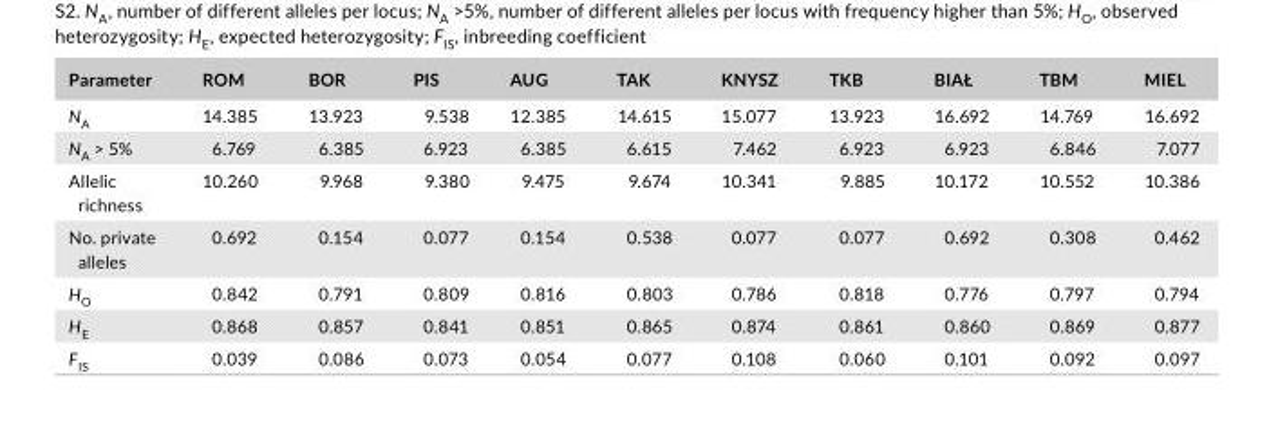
<table><thead><tr><td>Parameter</td><td>ROM</td><td>BOR</td><td>PIS</td><td>AUG</td><td>TAK</td><td>KNYSZ</td><td>TKB</td><td>BIAŁ</td><td>TBM</td><td>MIEL</td></tr></thead><tbody><tr><td>N<sub>A</sub></td><td>14.385</td><td>13.923</td><td>9.538</td><td>12.385</td><td>14.615</td><td>15.077</td><td>13.923</td><td>16.692</td><td>14.769</td><td>16.692</td></tr><tr><td>N<sub>A</sub> &gt; 5%</td><td>6.769</td><td>6.385</td><td>6.923</td><td>6.385</td><td>6.615</td><td>7.462</td><td>6.923</td><td>6.923</td><td>6.846</td><td>7.077</td></tr><tr><td>Allelic richness</td><td>10.260</td><td>9.968</td><td>9.380</td><td>9.475</td><td>9.674</td><td>10.341</td><td>9.885</td><td>10.172</td><td>10.552</td><td>10.386</td></tr><tr><td>No. private alleles</td><td>0.692</td><td>0.154</td><td>0.077</td><td>0.154</td><td>0.538</td><td>0.077</td><td>0.077</td><td>0.692</td><td>0.308</td><td>0.462</td></tr><tr><td>H<sub>O</sub></td><td>0.842</td><td>0.791</td><td>0.809</td><td>0.816</td><td>0.803</td><td>0.786</td><td>0.818</td><td>0.776</td><td>0.797</td><td>0.794</td></tr><tr><td>H<sub>E</sub></td><td>0.868</td><td>0.857</td><td>0.841</td><td>0.851</td><td>0.865</td><td>0.874</td><td>0.861</td><td>0.860</td><td>0.869</td><td>0.877</td></tr><tr><td>F<sub>IS</sub></td><td>0.039</td><td>0.086</td><td>0.073</td><td>0.054</td><td>0.077</td><td>0.108</td><td>0.060</td><td>0.101</td><td>0.092</td><td>0.097</td></tr></tbody></table>